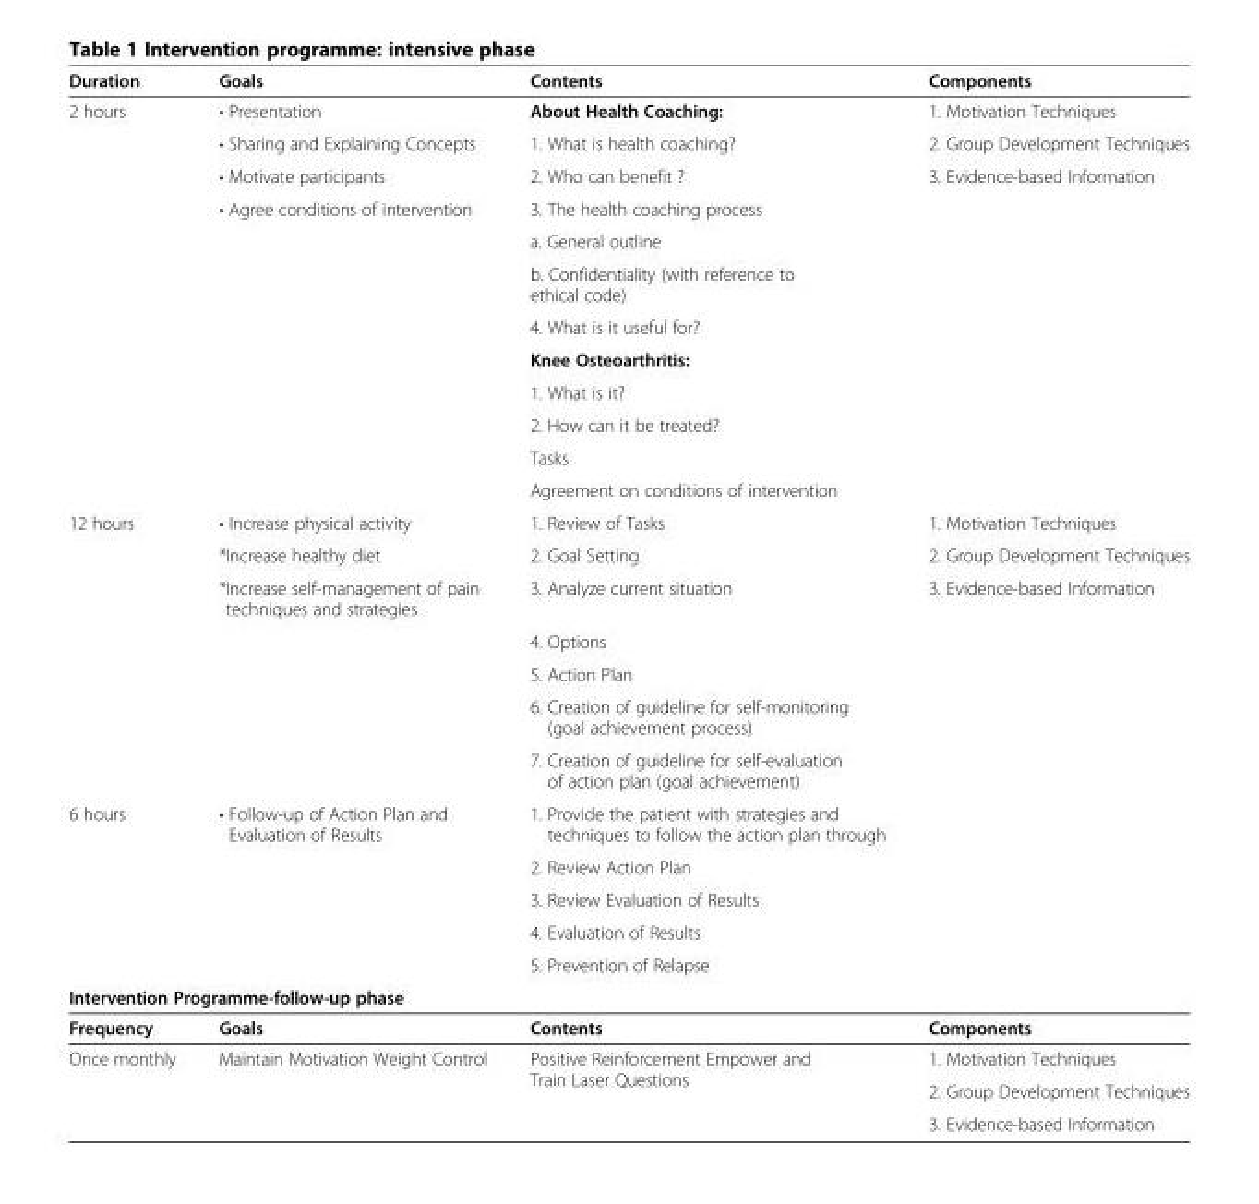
<table><thead><tr><td>Duration</td><td>Goals</td><td>Contents</td><td>Components</td></tr></thead><tbody><tr><td rowspan="12">2 hours</td><td>• Presentation</td><td>About Health Coaching:</td><td>1. Motivation Techniques</td></tr><tr><td>• Sharing and Explaining Concepts</td><td>1. What is health coaching?</td><td>2. Group Development Techniques</td></tr><tr><td>• Motivate participants</td><td>2. Who can benefit ?</td><td>3. Evidence-based Information</td></tr><tr><td>• Agree conditions of intervention</td><td>3. The health coaching process</td><td></td></tr><tr><td></td><td>a. General outline</td><td></td></tr><tr><td></td><td>b. Confidentiality (with reference to ethical code)</td><td></td></tr><tr><td></td><td>4. What is it useful for?</td><td></td></tr><tr><td></td><td>Knee Osteoarthritis:</td><td></td></tr><tr><td></td><td>1. What is it?</td><td></td></tr><tr><td></td><td>2. How can it be treated?</td><td></td></tr><tr><td></td><td>Tasks</td><td></td></tr><tr><td></td><td>Agreement on conditions of intervention</td><td></td></tr><tr><td rowspan="7">12 hours</td><td>• Increase physical activity</td><td>1. Review of Tasks</td><td>1. Motivation Techniques</td></tr><tr><td>*Increase healthy diet</td><td>2. Goal Setting</td><td>2. Group Development Techniques</td></tr><tr><td>*Increase self-management of pain techniques and strategies</td><td>3. Analyze current situation</td><td>3. Evidence-based Information</td></tr><tr><td></td><td>4. Options</td><td></td></tr><tr><td></td><td>5. Action Plan</td><td></td></tr><tr><td></td><td>6. Creation of guideline for self-monitoring (goal achievement process)</td><td></td></tr><tr><td></td><td>7. Creation of guideline for self-evaluation of action plan (goal achievement)</td><td></td></tr><tr><td rowspan="5">6 hours</td><td>• Follow-up of Action Plan and Evaluation of Results</td><td>1. Provide the patient with strategies and techniques to follow the action plan through</td><td></td></tr><tr><td></td><td>2. Review Action Plan</td><td></td></tr><tr><td></td><td>3. Review Evaluation of Results</td><td></td></tr><tr><td></td><td>4. Evaluation of Results</td><td></td></tr><tr><td></td><td>5. Prevention of Relapse</td><td></td></tr><tr><td colspan="4">Intervention Programme-follow-up phase</td></tr><tr><td>Frequency</td><td>Goals</td><td>Contents</td><td>Components</td></tr><tr><td rowspan="3">Once monthly</td><td rowspan="3">Maintain Motivation Weight Control</td><td rowspan="3">Positive Reinforcement Empower and Train Laser Questions</td><td>1. Motivation Techniques</td></tr><tr><td>2. Group Development Techniques</td></tr><tr><td>3. Evidence-based Information</td></tr></tbody></table>